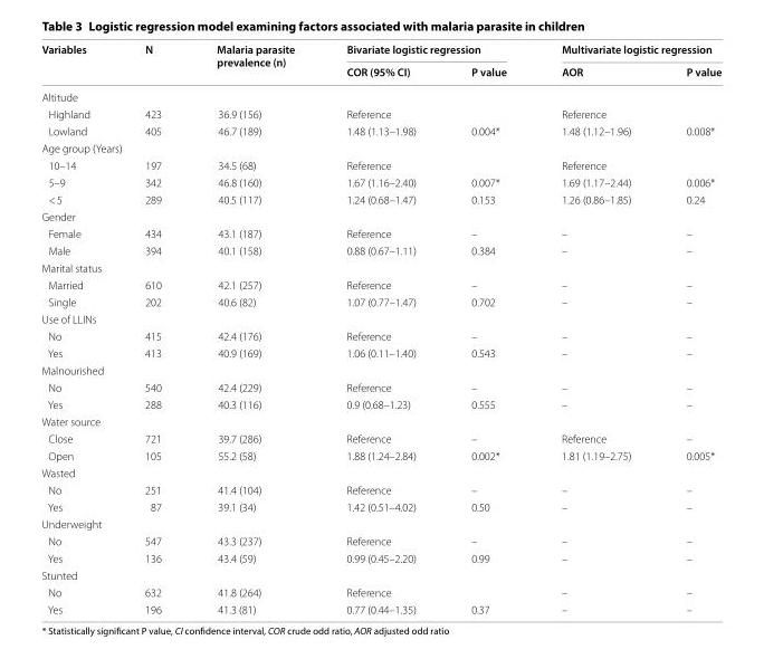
<table><thead><tr><td rowspan="2">Variables</td><td rowspan="2">N</td><td rowspan="2">Malaria parasite prevalence (n)</td><td colspan="2">Bivariate logistic regression</td><td colspan="2">Multivariate logistic regression</td></tr><tr><td>COR (95% CI)</td><td>P value</td><td>AOR</td><td>P value</td></tr></thead><tbody><tr><td colspan="7">Altitude</td></tr><tr><td>Highland</td><td>423</td><td>36.9 (156)</td><td>Reference</td><td></td><td>Reference</td><td></td></tr><tr><td>Lowland</td><td>405</td><td>46.7 (189)</td><td>1.48 (1.13–1.98)</td><td>0.004*</td><td>1.48 (1.12–1.96)</td><td>0.008*</td></tr><tr><td colspan="7">Age group (Years)</td></tr><tr><td>10–14</td><td>197</td><td>34.5 (68)</td><td>Reference</td><td></td><td>Reference</td><td></td></tr><tr><td>5–9</td><td>342</td><td>46.8 (160)</td><td>1.67 (1.16–2.40)</td><td>0.007*</td><td>1.69 (1.17–2.44)</td><td>0.006*</td></tr><tr><td>&lt; 5</td><td>289</td><td>40.5 (117)</td><td>1.24 (0.68–1.47)</td><td>0.153</td><td>1.26 (0.86–1.85)</td><td>0.24</td></tr><tr><td colspan="7">Gender</td></tr><tr><td>Female</td><td>434</td><td>43.1 (187)</td><td>Reference</td><td>–</td><td>–</td><td>–</td></tr><tr><td>Male</td><td>394</td><td>40.1 (158)</td><td>0.88 (0.67–1.11)</td><td>0.384</td><td>–</td><td>–</td></tr><tr><td colspan="7">Marital status</td></tr><tr><td>Married</td><td>610</td><td>42.1 (257)</td><td>Reference</td><td>–</td><td>–</td><td>–</td></tr><tr><td>Single</td><td>202</td><td>40.6 (82)</td><td>1.07 (0.77–1.47)</td><td>0.702</td><td>–</td><td>–</td></tr><tr><td colspan="7">Use of LLINs</td></tr><tr><td>No</td><td>415</td><td>42.4 (176)</td><td>Reference</td><td>–</td><td>–</td><td>–</td></tr><tr><td>Yes</td><td>413</td><td>40.9 (169)</td><td>1.06 (0.11–1.40)</td><td>0.543</td><td>–</td><td>–</td></tr><tr><td colspan="7">Malnourished</td></tr><tr><td>No</td><td>540</td><td>42.4 (229)</td><td>Reference</td><td>–</td><td>–</td><td>–</td></tr><tr><td>Yes</td><td>288</td><td>40.3 (116)</td><td>0.9 (0.68–1.23)</td><td>0.555</td><td>–</td><td>–</td></tr><tr><td colspan="7">Water source</td></tr><tr><td>Close</td><td>721</td><td>39.7 (286)</td><td>Reference</td><td>–</td><td>Reference</td><td>–</td></tr><tr><td>Open</td><td>105</td><td>55.2 (58)</td><td>1.88 (1.24–2.84)</td><td>0.002*</td><td>1.81 (1.19–2.75)</td><td>0.005*</td></tr><tr><td colspan="7">Wasted</td></tr><tr><td>No</td><td>251</td><td>41.4 (104)</td><td>Reference</td><td>–</td><td>–</td><td>–</td></tr><tr><td>Yes</td><td>87</td><td>39.1 (34)</td><td>1.42 (0.51–4.02)</td><td>0.50</td><td>–</td><td>–</td></tr><tr><td colspan="7">Underweight</td></tr><tr><td>No</td><td>547</td><td>43.3 (237)</td><td>Reference</td><td>–</td><td>–</td><td>–</td></tr><tr><td>Yes</td><td>136</td><td>43.4 (59)</td><td>0.99 (0.45–2.20)</td><td>0.99</td><td>–</td><td>–</td></tr><tr><td colspan="7">Stunted</td></tr><tr><td>No</td><td>632</td><td>41.8 (264)</td><td>Reference</td><td></td><td>–</td><td>–</td></tr><tr><td>Yes</td><td>196</td><td>41.3 (81)</td><td>0.77 (0.44–1.35)</td><td>0.37</td><td>–</td><td>–</td></tr></tbody></table>